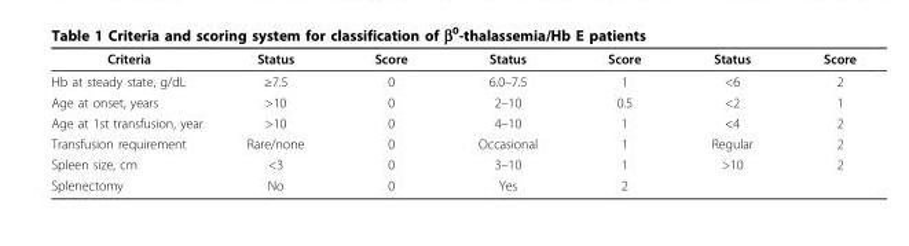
<table><thead><tr><td>Criteria</td><td>Status</td><td>Score</td><td>Status</td><td>Score</td><td>Status</td><td>Score</td></tr></thead><tbody><tr><td>Hb at steady state, g/dL</td><td>≥7.5</td><td>0</td><td>6.0–7.5</td><td>1</td><td>&lt;6</td><td>2</td></tr><tr><td>Age at onset, years</td><td>&gt;10</td><td>0</td><td>2–10</td><td>0.5</td><td>&lt;2</td><td>1</td></tr><tr><td>Age at 1st transfusion, year</td><td>&gt;10</td><td>0</td><td>4–10</td><td>1</td><td>&lt;4</td><td>2</td></tr><tr><td>Transfusion requirement</td><td>Rare/none</td><td>0</td><td>Occasional</td><td>1</td><td>Regular</td><td>2</td></tr><tr><td>Spleen size, cm</td><td>&lt;3</td><td>0</td><td>3–10</td><td>1</td><td>&gt;10</td><td>2</td></tr><tr><td>Splenectomy</td><td>No</td><td>0</td><td>Yes</td><td>2</td><td></td><td></td></tr></tbody></table>